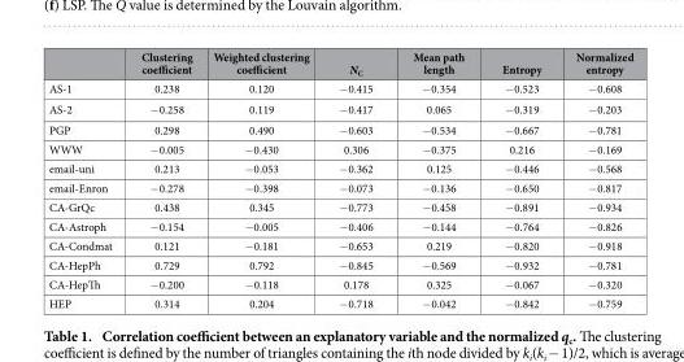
<table><thead><tr><td></td><td>Clustering coefficient</td><td>Weighted clustering coefficient</td><td>N<sub>C</sub></td><td>Mean path length</td><td>Entropy</td><td>Normalized entropy</td></tr></thead><tbody><tr><td>AS-1</td><td>0.238</td><td>0.120</td><td>− 0.415</td><td>− 0.354</td><td>− 0.523</td><td>− 0.608</td></tr><tr><td>AS-2</td><td>− 0.258</td><td>0.119</td><td>− 0.417</td><td>0.065</td><td>− 0.319</td><td>− 0.203</td></tr><tr><td>PGP</td><td>0.298</td><td>0.490</td><td>− 0.603</td><td>− 0.534</td><td>− 0.667</td><td>− 0.781</td></tr><tr><td>WWW</td><td>− 0.005</td><td>− 0.430</td><td>0.306</td><td>− 0.375</td><td>0.216</td><td>− 0.169</td></tr><tr><td>email-uni</td><td>0.213</td><td>− 0.053</td><td>− 0.362</td><td>0.125</td><td>− 0.446</td><td>− 0.568</td></tr><tr><td>email-Enron</td><td>− 0.278</td><td>− 0.398</td><td>− 0.073</td><td>− 0.136</td><td>− 0.650</td><td>− 0.817</td></tr><tr><td>CA-GrQc</td><td>0.438</td><td>0.345</td><td>− 0.773</td><td>− 0.458</td><td>− 0.891</td><td>− 0.934</td></tr><tr><td>CA-Astroph</td><td>− 0.154</td><td>− 0.005</td><td>− 0.406</td><td>− 0.144</td><td>− 0.764</td><td>− 0.826</td></tr><tr><td>CA-Condmat</td><td>0.121</td><td>− 0.181</td><td>− 0.653</td><td>0.219</td><td>− 0.820</td><td>− 0.918</td></tr><tr><td>CA-HepPh</td><td>0.729</td><td>0.792</td><td>− 0.845</td><td>− 0.569</td><td>− 0.932</td><td>− 0.781</td></tr><tr><td>CA-HepTh</td><td>− 0.200</td><td>− 0.118</td><td>0.178</td><td>0.325</td><td>− 0.067</td><td>− 0.320</td></tr><tr><td>HEP</td><td>0.314</td><td>0.204</td><td>− 0.718</td><td>− 0.042</td><td>− 0.842</td><td>− 0.759</td></tr></tbody></table>